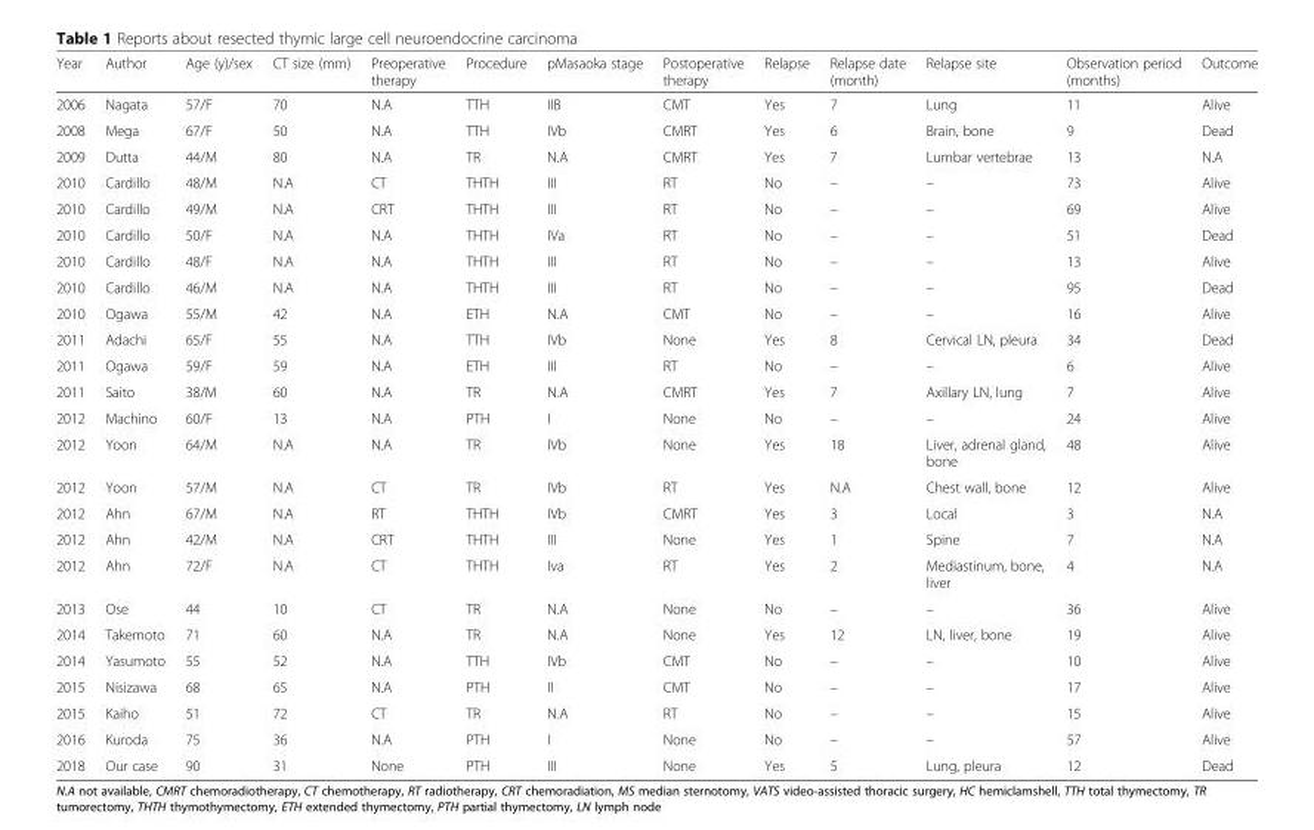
<table><thead><tr><td>Year</td><td>Author</td><td>Age (y)/sex</td><td>CT size (mm)</td><td>Preoperative therapy</td><td>Procedure</td><td>pMasaoka stage</td><td>Postoperative therapy</td><td>Relapse</td><td>Relapse date (month)</td><td>Relapse site</td><td>Observation period (months)</td><td>Outcome</td></tr></thead><tbody><tr><td>2006</td><td>Nagata</td><td>57/F</td><td>70</td><td>N.A</td><td>TTH</td><td>IIB</td><td>CMT</td><td>Yes</td><td>7</td><td>Lung</td><td>11</td><td>Alive</td></tr><tr><td>2008</td><td>Mega</td><td>67/F</td><td>50</td><td>N.A</td><td>TTH</td><td>IVb</td><td>CMRT</td><td>Yes</td><td>6</td><td>Brain, bone</td><td>9</td><td>Dead</td></tr><tr><td>2009</td><td>Dutta</td><td>44/M</td><td>80</td><td>N.A</td><td>TR</td><td>N.A</td><td>CMRT</td><td>Yes</td><td>7</td><td>Lumbar vertebrae</td><td>13</td><td>N.A</td></tr><tr><td>2010</td><td>Cardillo</td><td>48/M</td><td>N.A</td><td>CT</td><td>THTH</td><td>III</td><td>RT</td><td>No</td><td>–</td><td>–</td><td>73</td><td>Alive</td></tr><tr><td>2010</td><td>Cardillo</td><td>49/M</td><td>N.A</td><td>CRT</td><td>THTH</td><td>III</td><td>RT</td><td>No</td><td>–</td><td>–</td><td>69</td><td>Alive</td></tr><tr><td>2010</td><td>Cardillo</td><td>50/F</td><td>N.A</td><td>N.A</td><td>THTH</td><td>IVa</td><td>RT</td><td>No</td><td>–</td><td>–</td><td>51</td><td>Dead</td></tr><tr><td>2010</td><td>Cardillo</td><td>48/F</td><td>N.A</td><td>N.A</td><td>THTH</td><td>III</td><td>RT</td><td>No</td><td>–</td><td>–</td><td>13</td><td>Alive</td></tr><tr><td>2010</td><td>Cardillo</td><td>46/M</td><td>N.A</td><td>N.A</td><td>THTH</td><td>III</td><td>RT</td><td>No</td><td>–</td><td>–</td><td>95</td><td>Dead</td></tr><tr><td>2010</td><td>Ogawa</td><td>55/M</td><td>42</td><td>N.A</td><td>ETH</td><td>N.A</td><td>CMT</td><td>No</td><td>–</td><td>–</td><td>16</td><td>Alive</td></tr><tr><td>2011</td><td>Adachi</td><td>65/F</td><td>55</td><td>N.A</td><td>TTH</td><td>IVb</td><td>None</td><td>Yes</td><td>8</td><td>Cervical LN, pleura</td><td>34</td><td>Dead</td></tr><tr><td>2011</td><td>Ogawa</td><td>59/F</td><td>59</td><td>N.A</td><td>ETH</td><td>III</td><td>RT</td><td>No</td><td>–</td><td>–</td><td>6</td><td>Alive</td></tr><tr><td>2011</td><td>Saito</td><td>38/M</td><td>60</td><td>N.A</td><td>TR</td><td>N.A</td><td>CMRT</td><td>Yes</td><td>7</td><td>Axillary LN, lung</td><td>7</td><td>Alive</td></tr><tr><td>2012</td><td>Machino</td><td>60/F</td><td>13</td><td>N.A</td><td>PTH</td><td>I</td><td>None</td><td>No</td><td>–</td><td>–</td><td>24</td><td>Alive</td></tr><tr><td>2012</td><td>Yoon</td><td>64/M</td><td>N.A</td><td>N.A</td><td>TR</td><td>IVb</td><td>None</td><td>Yes</td><td>18</td><td>Liver, adrenal gland, bone</td><td>48</td><td>Alive</td></tr><tr><td>2012</td><td>Yoon</td><td>57/M</td><td>N.A</td><td>CT</td><td>TR</td><td>IVb</td><td>RT</td><td>Yes</td><td>N.A</td><td>Chest wall, bone</td><td>12</td><td>Alive</td></tr><tr><td>2012</td><td>Ahn</td><td>67/M</td><td>N.A</td><td>RT</td><td>THTH</td><td>IVb</td><td>CMRT</td><td>Yes</td><td>3</td><td>Local</td><td>3</td><td>N.A</td></tr><tr><td>2012</td><td>Ahn</td><td>42/M</td><td>N.A</td><td>CRT</td><td>THTH</td><td>III</td><td>None</td><td>Yes</td><td>1</td><td>Spine</td><td>7</td><td>N.A</td></tr><tr><td>2012</td><td>Ahn</td><td>72/F</td><td>N.A</td><td>CT</td><td>THTH</td><td>Iva</td><td>RT</td><td>Yes</td><td>2</td><td>Mediastinum, bone, liver</td><td>4</td><td>N.A</td></tr><tr><td>2013</td><td>Ose</td><td>44</td><td>10</td><td>CT</td><td>TR</td><td>N.A</td><td>None</td><td>No</td><td>–</td><td>–</td><td>36</td><td>Alive</td></tr><tr><td>2014</td><td>Takemoto</td><td>71</td><td>60</td><td>N.A</td><td>TR</td><td>N.A</td><td>None</td><td>Yes</td><td>12</td><td>LN, liver, bone</td><td>19</td><td>Alive</td></tr><tr><td>2014</td><td>Yasumoto</td><td>55</td><td>52</td><td>N.A</td><td>TTH</td><td>IVb</td><td>CMT</td><td>No</td><td>–</td><td>–</td><td>10</td><td>Alive</td></tr><tr><td>2015</td><td>Nisizawa</td><td>68</td><td>65</td><td>N.A</td><td>PTH</td><td>II</td><td>CMT</td><td>No</td><td>–</td><td>–</td><td>17</td><td>Alive</td></tr><tr><td>2015</td><td>Kaiho</td><td>51</td><td>72</td><td>CT</td><td>TR</td><td>N.A</td><td>RT</td><td>No</td><td>–</td><td>–</td><td>15</td><td>Alive</td></tr><tr><td>2016</td><td>Kuroda</td><td>75</td><td>36</td><td>N.A</td><td>PTH</td><td>I</td><td>None</td><td>No</td><td>–</td><td>–</td><td>57</td><td>Alive</td></tr><tr><td>2018</td><td>Our case</td><td>90</td><td>31</td><td>None</td><td>PTH</td><td>III</td><td>None</td><td>Yes</td><td>5</td><td>Lung, pleura</td><td>12</td><td>Dead</td></tr></tbody></table>